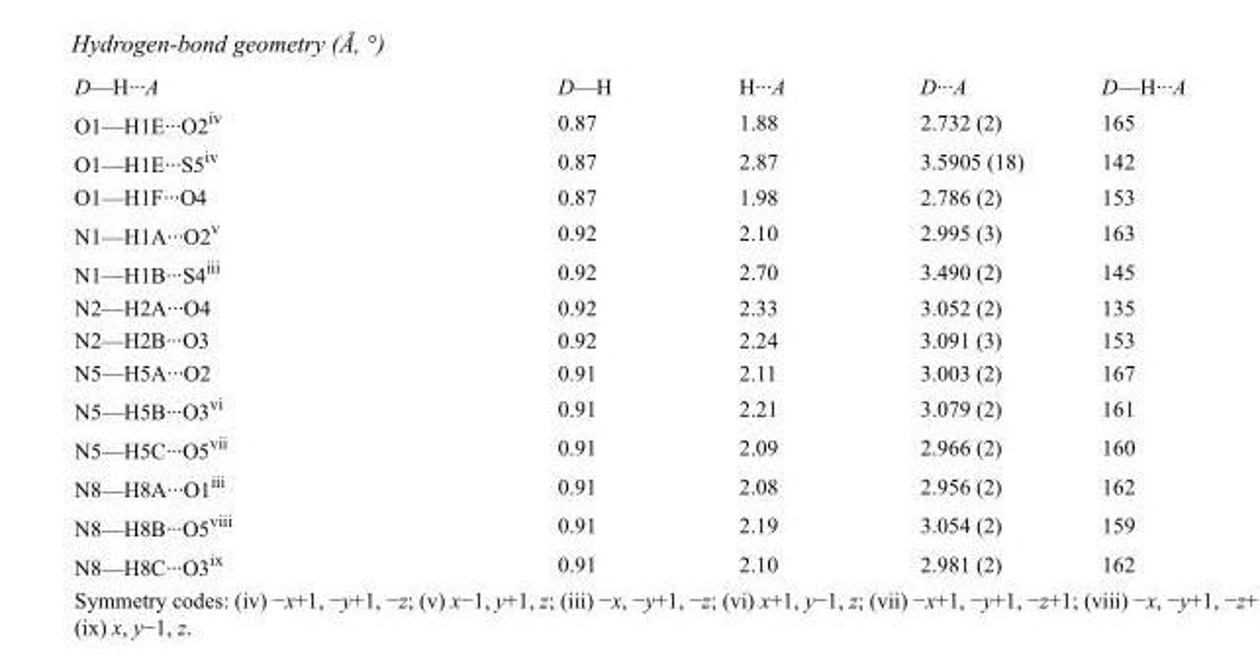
<table><tbody><tr><td>D—H···A</td><td>D—H</td><td>H···A</td><td>D···A</td><td>D—H···A</td></tr><tr><td>O1—H1E···O2<sup>iv</sup></td><td>0.87</td><td>1.88</td><td>2.732 (2)</td><td>165</td></tr><tr><td>O1—H1E···S5<sup>iv</sup></td><td>0.87</td><td>2.87</td><td>3.5905 (18)</td><td>142</td></tr><tr><td>O1—H1F···O4</td><td>0.87</td><td>1.98</td><td>2.786 (2)</td><td>153</td></tr><tr><td>N1—H1A···O2<sup>v</sup></td><td>0.92</td><td>2.10</td><td>2.995 (3)</td><td>163</td></tr><tr><td>N1—H1B···S4<sup>iii</sup></td><td>0.92</td><td>2.70</td><td>3.490 (2)</td><td>145</td></tr><tr><td>N2—H2A···O4</td><td>0.92</td><td>2.33</td><td>3.052 (2)</td><td>135</td></tr><tr><td>N2—H2B···O3</td><td>0.92</td><td>2.24</td><td>3.091 (3)</td><td>153</td></tr><tr><td>N5—H5A···O2</td><td>0.91</td><td>2.11</td><td>3.003 (2)</td><td>167</td></tr><tr><td>N5—H5B···O3<sup>vi</sup></td><td>0.91</td><td>2.21</td><td>3.079 (2)</td><td>161</td></tr><tr><td>N5—H5C···O5<sup>vii</sup></td><td>0.91</td><td>2.09</td><td>2.966 (2)</td><td>160</td></tr><tr><td>N8—H8A···O1<sup>iii</sup></td><td>0.91</td><td>2.08</td><td>2.956 (2)</td><td>162</td></tr><tr><td>N8—H8B···O5<sup>viii</sup></td><td>0.91</td><td>2.19</td><td>3.054 (2)</td><td>159</td></tr><tr><td>N8—H8C···O3<sup>ix</sup></td><td>0.91</td><td>2.10</td><td>2.981 (2)</td><td>162</td></tr></tbody></table>